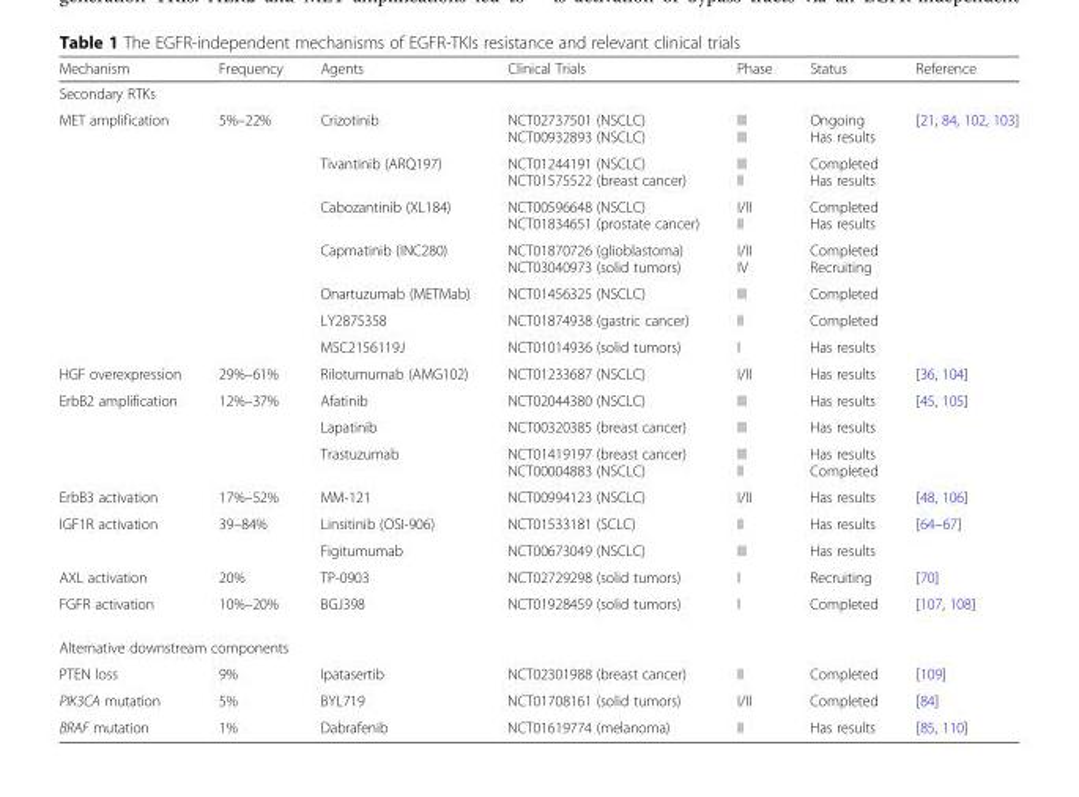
<table><thead><tr><td>Mechanism</td><td>Frequency</td><td>Agents</td><td>Clinical Trials</td><td>Phase</td><td>Status</td><td>Reference</td></tr></thead><tbody><tr><td colspan="7">Secondary RTKs</td></tr><tr><td rowspan="7">MET amplification</td><td rowspan="7">5%–22%</td><td>Crizotinib</td><td>NCT02737501 (NSCLC) NCT00932893 (NSCLC)</td><td>III III</td><td>Ongoing Has results</td><td rowspan="7">[21, 84, 102, 103]</td></tr><tr><td>Tivantinib (ARQ197)</td><td>NCT01244191 (NSCLC) NCT01575522 (breast cancer)</td><td>III II</td><td>Completed Has results</td></tr><tr><td>Cabozantinib (XL184)</td><td>NCT00596648 (NSCLC) NCT01834651 (prostate cancer)</td><td>I/II II</td><td>Completed Has results</td></tr><tr><td>Capmatinib (INC280)</td><td>NCT01870726 (glioblastoma) NCT03040973 (solid tumors)</td><td>I/II IV</td><td>Completed Recruiting</td></tr><tr><td>Onartuzumab (METMab)</td><td>NCT01456325 (NSCLC)</td><td>III</td><td>Completed</td></tr><tr><td>LY2875358</td><td>NCT01874938 (gastric cancer)</td><td>II</td><td>Completed</td></tr><tr><td>MSC2156119J</td><td>NCT01014936 (solid tumors)</td><td>I</td><td>Has results</td></tr><tr><td>HGF overexpression</td><td>29%–61%</td><td>Rilotumumab (AMG102)</td><td>NCT01233687 (NSCLC)</td><td>I/II</td><td>Has results</td><td>[36, 104]</td></tr><tr><td rowspan="3">ErbB2 amplification</td><td rowspan="3">12%–37%</td><td>Afatinib</td><td>NCT02044380 (NSCLC)</td><td>III</td><td>Has results</td><td rowspan="3">[45, 105]</td></tr><tr><td>Lapatinib</td><td>NCT00320385 (breast cancer)</td><td>III</td><td>Has results</td></tr><tr><td>Trastuzumab</td><td>NCT01419197 (breast cancer) NCT00004883 (NSCLC)</td><td>III II</td><td>Has results Completed</td></tr><tr><td>ErbB3 activation</td><td>17%–52%</td><td>MM-121</td><td>NCT00994123 (NSCLC)</td><td>I/II</td><td>Has results</td><td>[48, 106]</td></tr><tr><td rowspan="2">IGF1R activation</td><td rowspan="2">39–84%</td><td>Linsitinib (OSI-906)</td><td>NCT01533181 (SCLC)</td><td>II</td><td>Has results</td><td rowspan="2">[64–67]</td></tr><tr><td>Figitumumab</td><td>NCT00673049 (NSCLC)</td><td>III</td><td>Has results</td></tr><tr><td>AXL activation</td><td>20%</td><td>TP-0903</td><td>NCT02729298 (solid tumors)</td><td>I</td><td>Recruiting</td><td>[70]</td></tr><tr><td>FGFR activation</td><td>10%–20%</td><td>BGJ398</td><td>NCT01928459 (solid tumors)</td><td>I</td><td>Completed</td><td>[107, 108]</td></tr><tr><td colspan="7">Alternative downstream components</td></tr><tr><td>PTEN loss</td><td>9%</td><td>Ipatasertib</td><td>NCT02301988 (breast cancer)</td><td>II</td><td>Completed</td><td>[109]</td></tr><tr><td>PIK3CA mutation</td><td>5%</td><td>BYL719</td><td>NCT01708161 (solid tumors)</td><td>I/II</td><td>Completed</td><td>[84]</td></tr><tr><td>BRAF mutation</td><td>1%</td><td>Dabrafenib</td><td>NCT01619774 (melanoma)</td><td>II</td><td>Has results</td><td>[85, 110]</td></tr></tbody></table>